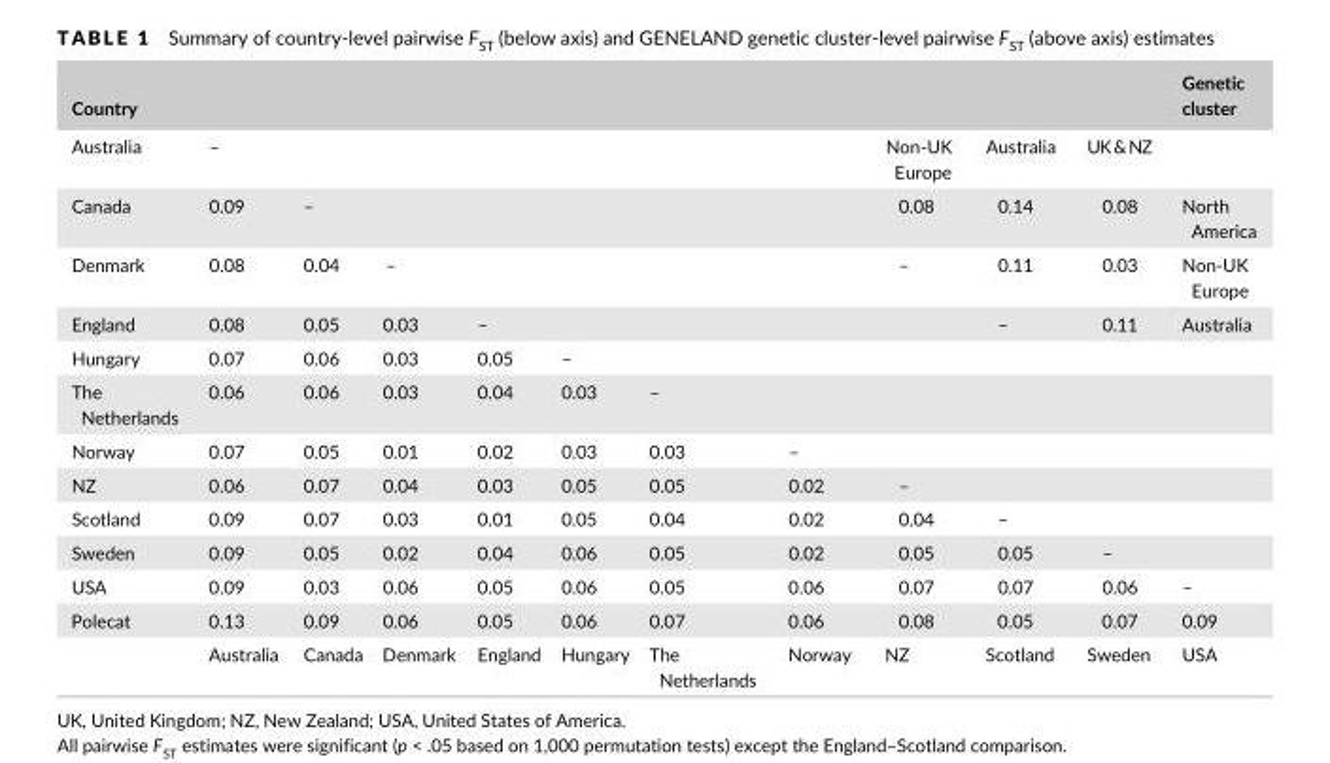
<table><thead><tr><td>Country</td><td></td><td></td><td></td><td></td><td></td><td></td><td></td><td></td><td></td><td></td><td>Genetic cluster</td></tr></thead><tbody><tr><td>Australia</td><td>–</td><td></td><td></td><td></td><td></td><td></td><td></td><td>Non- UK Europe</td><td>Australia</td><td>UK &amp; NZ</td><td></td></tr><tr><td>Canada</td><td>0.09</td><td>–</td><td></td><td></td><td></td><td></td><td></td><td>0.08</td><td>0.14</td><td>0.08</td><td>North America</td></tr><tr><td>Denmark</td><td>0.08</td><td>0.04</td><td>–</td><td></td><td></td><td></td><td></td><td>–</td><td>0.11</td><td>0.03</td><td>Non- UK Europe</td></tr><tr><td>England</td><td>0.08</td><td>0.05</td><td>0.03</td><td>–</td><td></td><td></td><td></td><td></td><td>–</td><td>0.11</td><td>Australia</td></tr><tr><td>Hungary</td><td>0.07</td><td>0.06</td><td>0.03</td><td>0.05</td><td>–</td><td></td><td></td><td></td><td></td><td></td><td></td></tr><tr><td>The Netherlands</td><td>0.06</td><td>0.06</td><td>0.03</td><td>0.04</td><td>0.03</td><td>–</td><td></td><td></td><td></td><td></td><td></td></tr><tr><td>Norway</td><td>0.07</td><td>0.05</td><td>0.01</td><td>0.02</td><td>0.03</td><td>0.03</td><td>–</td><td></td><td></td><td></td><td></td></tr><tr><td>NZ</td><td>0.06</td><td>0.07</td><td>0.04</td><td>0.03</td><td>0.05</td><td>0.05</td><td>0.02</td><td>–</td><td></td><td></td><td></td></tr><tr><td>Scotland</td><td>0.09</td><td>0.07</td><td>0.03</td><td>0.01</td><td>0.05</td><td>0.04</td><td>0.02</td><td>0.04</td><td>–</td><td></td><td></td></tr><tr><td>Sweden</td><td>0.09</td><td>0.05</td><td>0.02</td><td>0.04</td><td>0.06</td><td>0.05</td><td>0.02</td><td>0.05</td><td>0.05</td><td>–</td><td></td></tr><tr><td>USA</td><td>0.09</td><td>0.03</td><td>0.06</td><td>0.05</td><td>0.06</td><td>0.05</td><td>0.06</td><td>0.07</td><td>0.07</td><td>0.06</td><td>–</td></tr><tr><td rowspan="2">Polecat</td><td>0.13</td><td>0.09</td><td>0.06</td><td>0.05</td><td>0.06</td><td>0.07</td><td>0.06</td><td>0.08</td><td>0.05</td><td>0.07</td><td>0.09</td></tr><tr><td>Australia</td><td>Canada</td><td>Denmark</td><td>England</td><td>Hungary</td><td>The Netherlands</td><td>Norway</td><td>NZ</td><td>Scotland</td><td>Sweden</td><td>USA</td></tr></tbody></table>